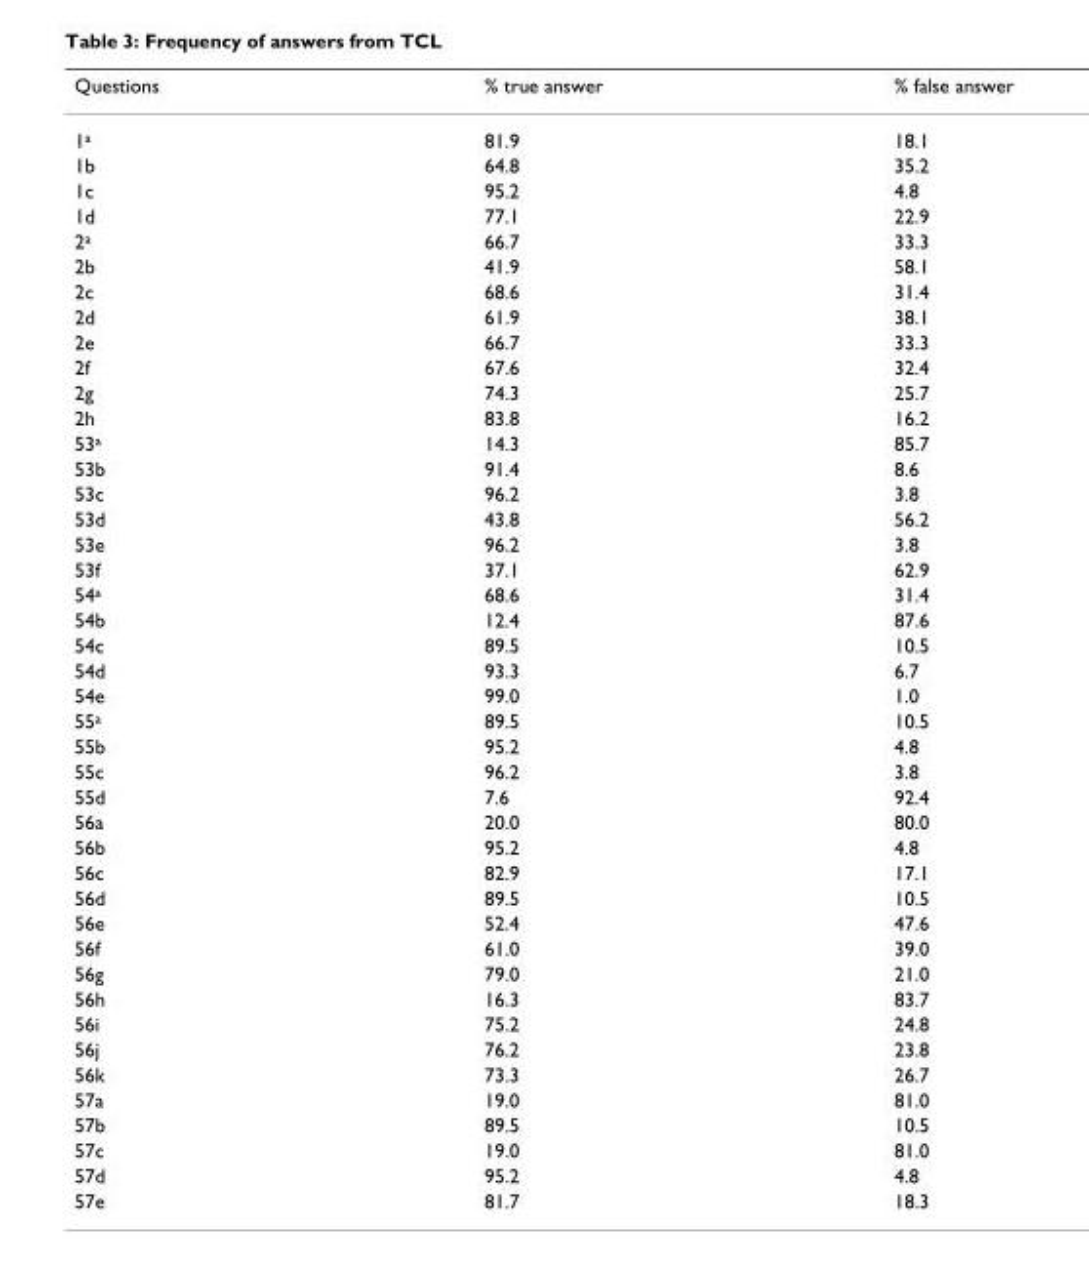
<table><thead><tr><td>Questions</td><td>% true answer</td><td>% false answer</td></tr></thead><tbody><tr><td>1<sup>a</sup></td><td>81.9</td><td>18.1</td></tr><tr><td>1b</td><td>64.8</td><td>35.2</td></tr><tr><td>1c</td><td>95.2</td><td>4.8</td></tr><tr><td>1d</td><td>77.1</td><td>22.9</td></tr><tr><td>2<sup>a</sup></td><td>66.7</td><td>33.3</td></tr><tr><td>2b</td><td>41.9</td><td>58.1</td></tr><tr><td>2c</td><td>68.6</td><td>31.4</td></tr><tr><td>2d</td><td>61.9</td><td>38.1</td></tr><tr><td>2e</td><td>66.7</td><td>33.3</td></tr><tr><td>2f</td><td>67.6</td><td>32.4</td></tr><tr><td>2g</td><td>74.3</td><td>25.7</td></tr><tr><td>2h</td><td>83.8</td><td>16.2</td></tr><tr><td>53<sup>a</sup></td><td>14.3</td><td>85.7</td></tr><tr><td>53b</td><td>91.4</td><td>8.6</td></tr><tr><td>53c</td><td>96.2</td><td>3.8</td></tr><tr><td>53d</td><td>43.8</td><td>56.2</td></tr><tr><td>53e</td><td>96.2</td><td>3.8</td></tr><tr><td>53f</td><td>37.1</td><td>62.9</td></tr><tr><td>54<sup>a</sup></td><td>68.6</td><td>31.4</td></tr><tr><td>54b</td><td>12.4</td><td>87.6</td></tr><tr><td>54c</td><td>89.5</td><td>10.5</td></tr><tr><td>54d</td><td>93.3</td><td>6.7</td></tr><tr><td>54e</td><td>99.0</td><td>1.0</td></tr><tr><td>55<sup>a</sup></td><td>89.5</td><td>10.5</td></tr><tr><td>55b</td><td>95.2</td><td>4.8</td></tr><tr><td>55c</td><td>96.2</td><td>3.8</td></tr><tr><td>55d</td><td>7.6</td><td>92.4</td></tr><tr><td>56a</td><td>20.0</td><td>80.0</td></tr><tr><td>56b</td><td>95.2</td><td>4.8</td></tr><tr><td>56c</td><td>82.9</td><td>17.1</td></tr><tr><td>56d</td><td>89.5</td><td>10.5</td></tr><tr><td>56e</td><td>52.4</td><td>47.6</td></tr><tr><td>56f</td><td>61.0</td><td>39.0</td></tr><tr><td>56g</td><td>79.0</td><td>21.0</td></tr><tr><td>56h</td><td>16.3</td><td>83.7</td></tr><tr><td>56i</td><td>75.2</td><td>24.8</td></tr><tr><td>56j</td><td>76.2</td><td>23.8</td></tr><tr><td>56k</td><td>73.3</td><td>26.7</td></tr><tr><td>57a</td><td>19.0</td><td>81.0</td></tr><tr><td>57b</td><td>89.5</td><td>10.5</td></tr><tr><td>57c</td><td>19.0</td><td>81.0</td></tr><tr><td>57d</td><td>95.2</td><td>4.8</td></tr><tr><td>57e</td><td>81.7</td><td>18.3</td></tr></tbody></table>